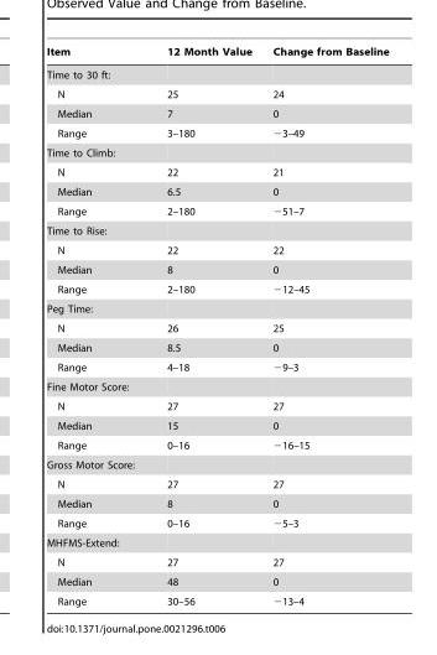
<table><thead><tr><td>Item</td><td>12 Month Value</td><td>Change from Baseline</td></tr></thead><tbody><tr><td colspan="3">Time to 30 ft:</td></tr><tr><td>N</td><td>25</td><td>24</td></tr><tr><td>Median</td><td>7</td><td>0</td></tr><tr><td>Range</td><td>3–180</td><td>−3–49</td></tr><tr><td colspan="3">Time to Climb:</td></tr><tr><td>N</td><td>22</td><td>21</td></tr><tr><td>Median</td><td>6.5</td><td>0</td></tr><tr><td>Range</td><td>2–180</td><td>−51–7</td></tr><tr><td colspan="3">Time to Rise:</td></tr><tr><td>N</td><td>22</td><td>22</td></tr><tr><td>Median</td><td>8</td><td>0</td></tr><tr><td>Range</td><td>2–180</td><td>−12–45</td></tr><tr><td colspan="3">Peg Time:</td></tr><tr><td>N</td><td>26</td><td>25</td></tr><tr><td>Median</td><td>8.5</td><td>0</td></tr><tr><td>Range</td><td>4–18</td><td>−9–3</td></tr><tr><td colspan="3">Fine Motor Score:</td></tr><tr><td>N</td><td>27</td><td>27</td></tr><tr><td>Median</td><td>15</td><td>0</td></tr><tr><td>Range</td><td>0–16</td><td>−16–15</td></tr><tr><td colspan="3">Gross Motor Score:</td></tr><tr><td>N</td><td>27</td><td>27</td></tr><tr><td>Median</td><td>8</td><td>0</td></tr><tr><td>Range</td><td>0–16</td><td>−5–3</td></tr><tr><td colspan="3">MHFMS-Extend:</td></tr><tr><td>N</td><td>27</td><td>27</td></tr><tr><td>Median</td><td>48</td><td>0</td></tr><tr><td>Range</td><td>30–56</td><td>−13–4</td></tr></tbody></table>